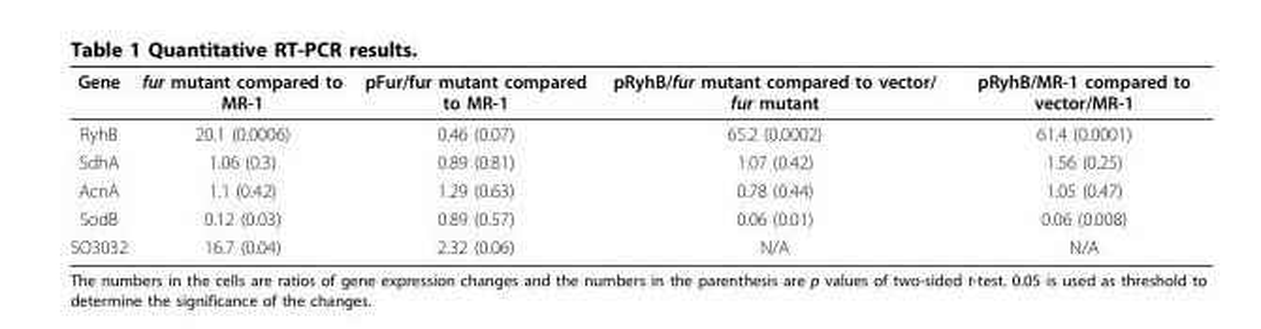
<table><thead><tr><td>Gene</td><td>fur mutant compared to MR-1</td><td>pFur/fur mutant compared to MR-1</td><td>pRyhB/fur mutant compared to vector/ fur mutant</td><td>pRyhB/MR-1 compared to vector/MR-1</td></tr></thead><tbody><tr><td>RyhB</td><td>20.1 (0.0006)</td><td>0.46 (0.07)</td><td>65.2 (0.0002)</td><td>61.4 (0.0001)</td></tr><tr><td>SdhA</td><td>1.06 (0.3)</td><td>0.89 (0.81)</td><td>1.07 (0.42)</td><td>1.56 (0.25)</td></tr><tr><td>AcnA</td><td>1.1 (0.42)</td><td>1.29 (0.63)</td><td>0.78 (0.44)</td><td>1.05 (0.47)</td></tr><tr><td>SodB</td><td>0.12 (0.03)</td><td>0.89 (0.57)</td><td>0.06 (0.01)</td><td>0.06 (0.008)</td></tr><tr><td>SO3032</td><td>16.7 (0.04)</td><td>2.32 (0.06)</td><td>N/A</td><td>N/A</td></tr></tbody></table>